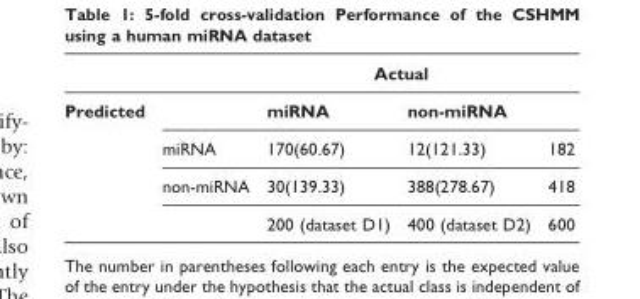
<table><thead><tr><td rowspan="2">Predicted</td><td rowspan="2"></td><td colspan="2">Actual</td><td rowspan="2"></td></tr><tr><td>miRNA</td><td>non-miRNA</td></tr></thead><tbody><tr><td></td><td>miRNA</td><td>170(60.67)</td><td>12(121.33)</td><td>182</td></tr><tr><td></td><td>non-miRNA</td><td>30(139.33)</td><td>388(278.67)</td><td>418</td></tr><tr><td></td><td></td><td>200 (dataset D1)</td><td>400 (dataset D2)</td><td>600</td></tr></tbody></table>